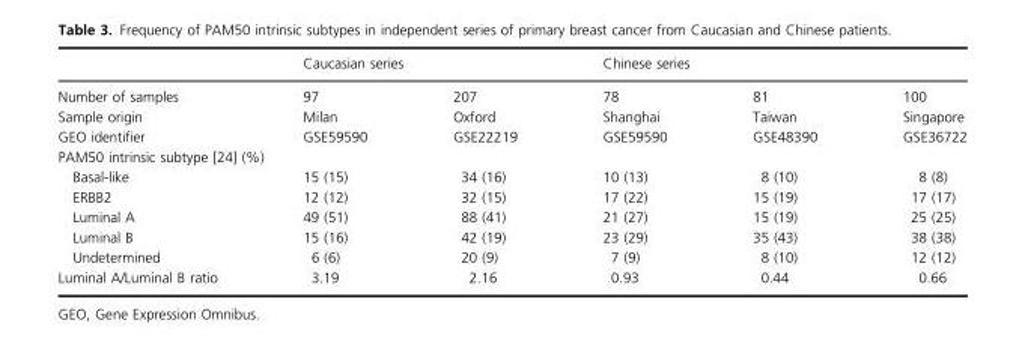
<table><thead><tr><td rowspan="2">Number of samples</td><td colspan="2">Caucasian series</td><td colspan="3">Chinese series</td></tr><tr><td>97</td><td>207</td><td>78</td><td>81</td><td>100</td></tr></thead><tbody><tr><td>Sample origin</td><td>Milan</td><td>Oxford</td><td>Shanghai</td><td>Taiwan</td><td>Singapore</td></tr><tr><td>GEO identifier</td><td>GSE59590</td><td>GSE22219</td><td>GSE59590</td><td>GSE48390</td><td>GSE36722</td></tr><tr><td colspan="6">PAM50 intrinsic subtype [24] (%)</td></tr><tr><td>Basal-like</td><td>15 (15)</td><td>34 (16)</td><td>10 (13)</td><td>8 (10)</td><td>8 (8)</td></tr><tr><td>ERBB2</td><td>12 (12)</td><td>32 (15)</td><td>17 (22)</td><td>15 (19)</td><td>17 (17)</td></tr><tr><td>Luminal A</td><td>49 (51)</td><td>88 (41)</td><td>21 (27)</td><td>15 (19)</td><td>25 (25)</td></tr><tr><td>Luminal B</td><td>15 (16)</td><td>42 (19)</td><td>23 (29)</td><td>35 (43)</td><td>38 (38)</td></tr><tr><td>Undetermined</td><td>6 (6)</td><td>20 (9)</td><td>7 (9)</td><td>8 (10)</td><td>12 (12)</td></tr><tr><td>Luminal A/Luminal B ratio</td><td>3.19</td><td>2.16</td><td>0.93</td><td>0.44</td><td>0.66</td></tr></tbody></table>